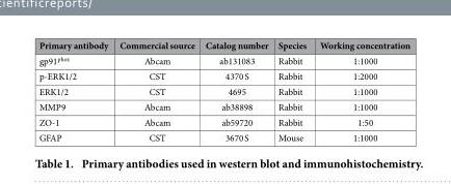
<table><thead><tr><td>Primary antibody</td><td>Commercial source</td><td>Catalog number</td><td>Species</td><td>Working concentration</td></tr></thead><tbody><tr><td>gp91<sup>phox</sup></td><td>Abcam</td><td>ab131083</td><td>Rabbit</td><td>1:1000</td></tr><tr><td>p-ERK1/2</td><td>CST</td><td>4370 S</td><td>Rabbit</td><td>1:2000</td></tr><tr><td>ERK1/2</td><td>CST</td><td>4695</td><td>Rabbit</td><td>1:1000</td></tr><tr><td>MMP9</td><td>Abcam</td><td>ab38898</td><td>Rabbit</td><td>1:1000</td></tr><tr><td>ZO-1</td><td>Abcam</td><td>ab59720</td><td>Rabbit</td><td>1:50</td></tr><tr><td>GFAP</td><td>CST</td><td>3670 S</td><td>Mouse</td><td>1:1000</td></tr></tbody></table>